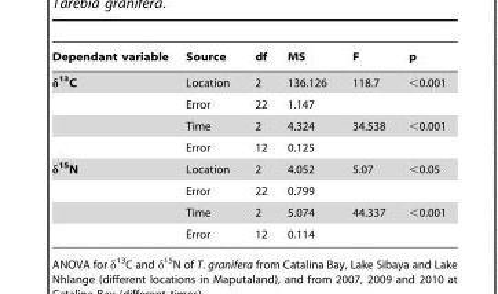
<table><thead><tr><td>Dependant variable</td><td>Source</td><td>df</td><td>MS</td><td>F</td><td>p</td></tr></thead><tbody><tr><td rowspan="4">δ<sup>13</sup>C</td><td>Location</td><td>2</td><td>136.126</td><td>118.7</td><td>&lt;0.001</td></tr><tr><td>Error</td><td>22</td><td>1.147</td><td></td><td></td></tr><tr><td>Time</td><td>2</td><td>4.324</td><td>34.538</td><td>&lt;0.001</td></tr><tr><td>Error</td><td>12</td><td>0.125</td><td></td><td></td></tr><tr><td rowspan="4">δ<sup>15</sup>N</td><td>Location</td><td>2</td><td>4.052</td><td>5.07</td><td>&lt;0.05</td></tr><tr><td>Error</td><td>22</td><td>0.799</td><td></td><td></td></tr><tr><td>Time</td><td>2</td><td>5.074</td><td>44.337</td><td>&lt;0.001</td></tr><tr><td>Error</td><td>12</td><td>0.114</td><td></td><td></td></tr></tbody></table>